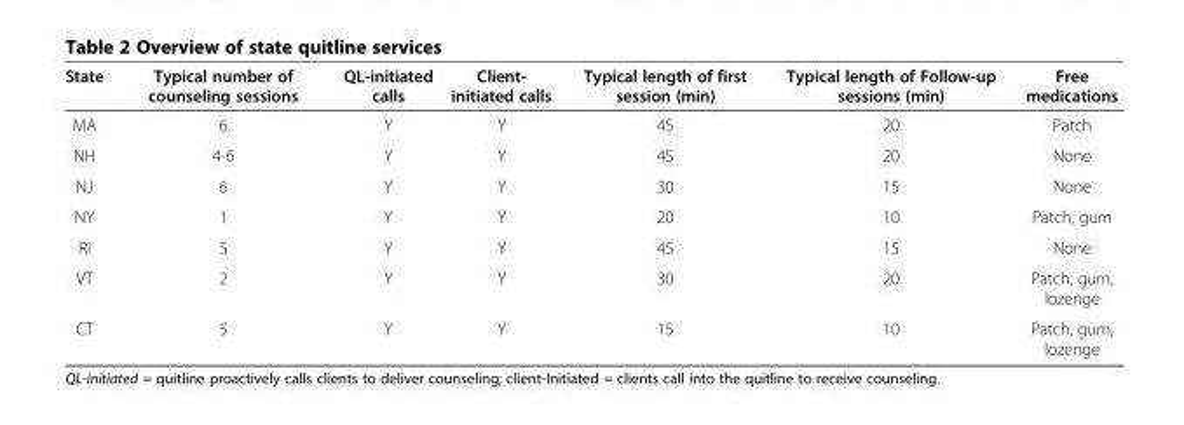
<table><thead><tr><td>State</td><td>Typical number of counseling sessions</td><td>QL-initiated calls</td><td>Client- initiated calls</td><td>Typical length of first session (min)</td><td>Typical length of Follow-up sessions (min)</td><td>Free medications</td></tr></thead><tbody><tr><td>MA</td><td>6</td><td>Y</td><td>Y</td><td>45</td><td>20</td><td>Patch</td></tr><tr><td>NH</td><td>4-6</td><td>Y</td><td>Y</td><td>45</td><td>20</td><td>None</td></tr><tr><td>NJ</td><td>6</td><td>Y</td><td>Y</td><td>30</td><td>15</td><td>None</td></tr><tr><td>NY</td><td>1</td><td>Y</td><td>Y</td><td>20</td><td>10</td><td>Patch, gum</td></tr><tr><td>RI</td><td>5</td><td>Y</td><td>Y</td><td>45</td><td>15</td><td>None</td></tr><tr><td>VT</td><td>2</td><td>Y</td><td>Y</td><td>30</td><td>20</td><td>Patch, gum, lozenge</td></tr><tr><td>CT</td><td>5</td><td>Y</td><td>Y</td><td>15</td><td>10</td><td>Patch, gum, lozenge</td></tr></tbody></table>